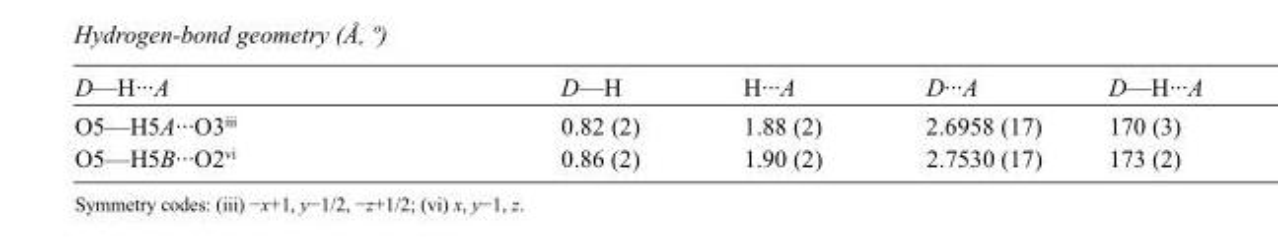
<table><tbody><tr><td>D—H···A</td><td>D—H</td><td>H···A</td><td>D···A</td><td>D—H···A</td></tr><tr><td>O5—H5A···O3<sup>iii</sup></td><td>0.82 (2)</td><td>1.88 (2)</td><td>2.6958 (17)</td><td>170 (3)</td></tr><tr><td>O5—H5B···O2<sup>vi</sup></td><td>0.86 (2)</td><td>1.90 (2)</td><td>2.7530 (17)</td><td>173 (2)</td></tr></tbody></table>